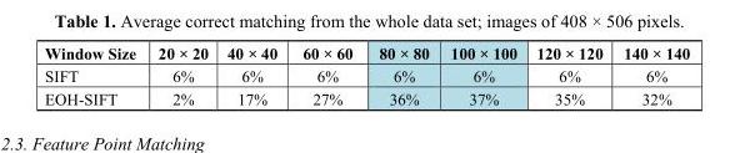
<table><thead><tr><td>Window Size</td><td>20 × 20</td><td>40 × 40</td><td>60 × 60</td><td>80 × 80</td><td>100 × 100</td><td>120 × 120</td><td>140 × 140</td></tr></thead><tbody><tr><td>SIFT</td><td>6%</td><td>6%</td><td>6%</td><td>6%</td><td>6%</td><td>6%</td><td>6%</td></tr><tr><td>EOH-SIFT</td><td>2%</td><td>17%</td><td>27%</td><td>36%</td><td>37%</td><td>35%</td><td>32%</td></tr></tbody></table>